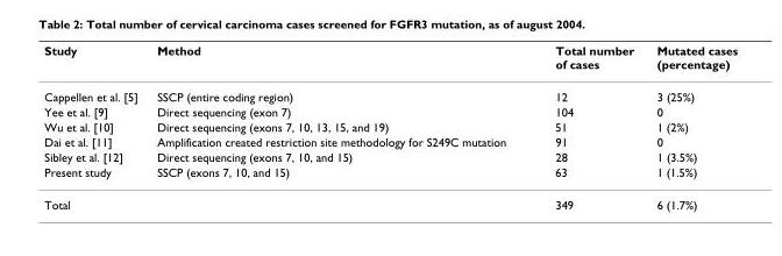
<table><thead><tr><td>Study</td><td>Method</td><td>Total number of cases</td><td>Mutated cases (percentage)</td></tr></thead><tbody><tr><td>Cappellen et al. [5]</td><td>SSCP (entire coding region)</td><td>12</td><td>3 (25%)</td></tr><tr><td>Yee et al. [9]</td><td>Direct sequencing (exon 7)</td><td>104</td><td>0</td></tr><tr><td>Wu et al. [10]</td><td>Direct sequencing (exons 7, 10, 13, 15, and 19)</td><td>51</td><td>1 (2%)</td></tr><tr><td>Dai et al. [11]</td><td>Amplification created restriction site methodology for S249C mutation</td><td>91</td><td>0</td></tr><tr><td>Sibley et al. [12]</td><td>Direct sequencing (exons 7, 10, and 15)</td><td>28</td><td>1 (3.5%)</td></tr><tr><td>Present study</td><td>SSCP (exons 7, 10, and 15)</td><td>63</td><td>1 (1.5%)</td></tr><tr><td>Total</td><td></td><td>349</td><td>6 (1.7%)</td></tr></tbody></table>